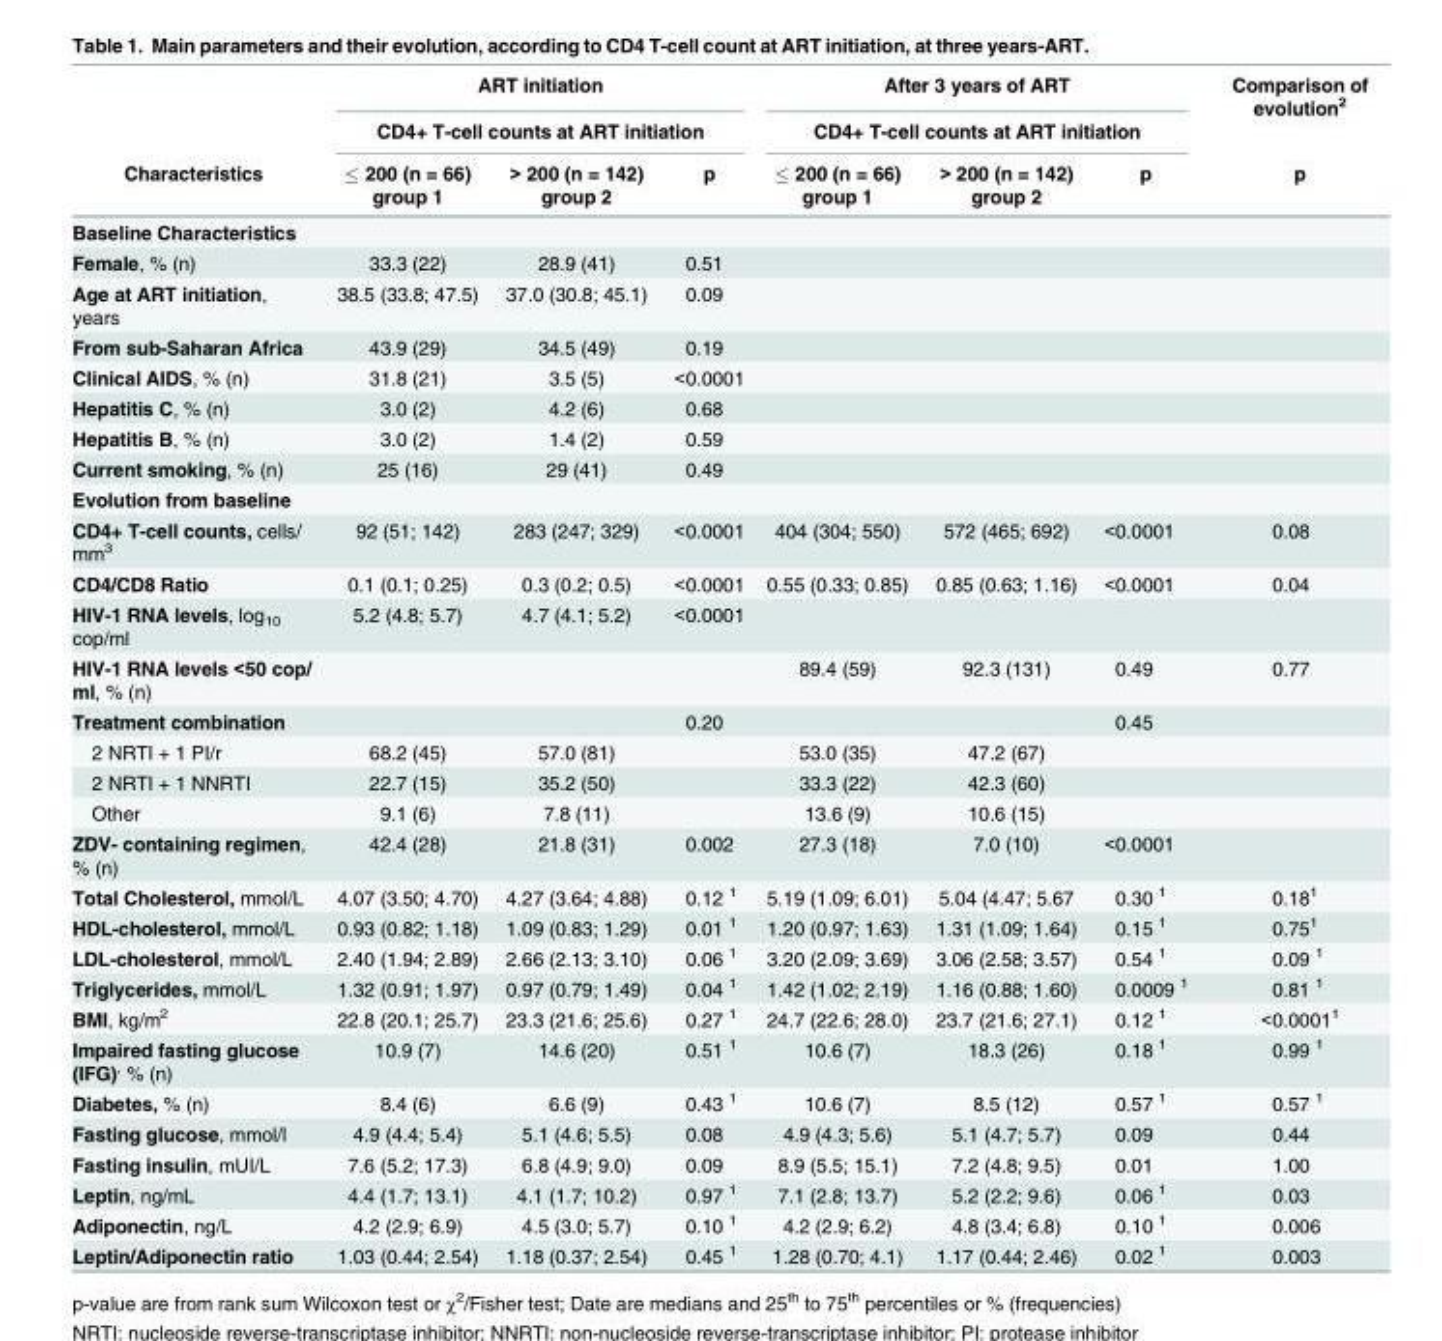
<table><thead><tr><td rowspan="3">Characteristics</td><td rowspan="2" colspan="3">ART initiation CD4+ T-cell counts at ART initiation</td><td rowspan="2" colspan="3">After 3 years of ART CD4+ T-cell counts at ART initiation</td><td rowspan="3">Comparison of evolution<sup>2</sup> p</td></tr><tr></tr><tr><td>≤ 200 (n = 66) group 1</td><td>&gt; 200 (n = 142) group 2</td><td>p</td><td>≤ 200 (n = 66) group 1</td><td>&gt; 200 (n = 142) group 2</td><td>p</td></tr></thead><tbody><tr><td colspan="8">Baseline Characteristics</td></tr><tr><td>Female, % (n)</td><td>33.3 (22)</td><td>28.9 (41)</td><td>0.51</td><td></td><td></td><td></td><td></td></tr><tr><td>Age at ART initiation, years</td><td>38.5 (33.8; 47.5)</td><td>37.0 (30.8; 45.1)</td><td>0.09</td><td></td><td></td><td></td><td></td></tr><tr><td>From sub-Saharan Africa</td><td>43.9 (29)</td><td>34.5 (49)</td><td>0.19</td><td></td><td></td><td></td><td></td></tr><tr><td>Clinical AIDS, % (n)</td><td>31.8 (21)</td><td>3.5 (5)</td><td>&lt;0.0001</td><td></td><td></td><td></td><td></td></tr><tr><td>Hepatitis C, % (n)</td><td>3.0 (2)</td><td>4.2 (6)</td><td>0.68</td><td></td><td></td><td></td><td></td></tr><tr><td>Hepatitis B, % (n)</td><td>3.0 (2)</td><td>1.4 (2)</td><td>0.59</td><td></td><td></td><td></td><td></td></tr><tr><td>Current smoking, % (n)</td><td>25 (16)</td><td>29 (41)</td><td>0.49</td><td></td><td></td><td></td><td></td></tr><tr><td colspan="8">Evolution from baseline</td></tr><tr><td>CD4+ T-cell counts, cells/ mm<sup>3</sup></td><td>92 (51; 142)</td><td>283 (247; 329)</td><td>&lt;0.0001</td><td>404 (304; 550)</td><td>572 (465; 692)</td><td>&lt;0.0001</td><td>0.08</td></tr><tr><td>CD4/CD8 Ratio</td><td>0.1 (0.1; 0.25)</td><td>0.3 (0.2; 0.5)</td><td>&lt;0.0001</td><td>0.55 (0.33; 0.85)</td><td>0.85 (0.63; 1.16)</td><td>&lt;0.0001</td><td>0.04</td></tr><tr><td>HIV-1 RNA levels, log<sub>10</sub> cop/ml</td><td>5.2 (4.8; 5.7)</td><td>4.7 (4.1; 5.2)</td><td>&lt;0.0001</td><td></td><td></td><td></td><td></td></tr><tr><td>HIV-1 RNA levels &lt;50 cop/ ml, % (n)</td><td></td><td></td><td></td><td>89.4 (59)</td><td>92.3 (131)</td><td>0.49</td><td>0.77</td></tr><tr><td>Treatment combination</td><td></td><td></td><td>0.20</td><td></td><td></td><td>0.45</td><td></td></tr><tr><td>2 NRTI + 1 PI/r</td><td>68.2 (45)</td><td>57.0 (81)</td><td></td><td>53.0 (35)</td><td>47.2 (67)</td><td></td><td></td></tr><tr><td>2 NRTI + 1 NNRTI</td><td>22.7 (15)</td><td>35.2 (50)</td><td></td><td>33.3 (22)</td><td>42.3 (60)</td><td></td><td></td></tr><tr><td>Other</td><td>9.1 (6)</td><td>7.8 (11)</td><td></td><td>13.6 (9)</td><td>10.6 (15)</td><td></td><td></td></tr><tr><td>ZDV- containing regimen, % (n)</td><td>42.4 (28)</td><td>21.8 (31)</td><td>0.002</td><td>27.3 (18)</td><td>7.0 (10)</td><td>&lt;0.0001</td><td></td></tr><tr><td>Total Cholesterol, mmol/L</td><td>4.07 (3.50; 4.70)</td><td>4.27 (3.64; 4.88)</td><td>0.12 <sup>1</sup></td><td>5.19 (1.09; 6.01)</td><td>5.04 (4.47; 5.67</td><td>0.30 <sup>1</sup></td><td>0.18<sup>1</sup></td></tr><tr><td>HDL-cholesterol, mmol/L</td><td>0.93 (0.82; 1.18)</td><td>1.09 (0.83; 1.29)</td><td>0.01 <sup>1</sup></td><td>1.20 (0.97; 1.63)</td><td>1.31 (1.09; 1.64)</td><td>0.15 <sup>1</sup></td><td>0.75<sup>1</sup></td></tr><tr><td>LDL-cholesterol, mmol/L</td><td>2.40 (1.94; 2.89)</td><td>2.66 (2.13; 3.10)</td><td>0.06 <sup>1</sup></td><td>3.20 (2.09; 3.69)</td><td>3.06 (2.58; 3.57)</td><td>0.54 <sup>1</sup></td><td>0.09 <sup>1</sup></td></tr><tr><td>Triglycerides, mmol/L</td><td>1.32 (0.91; 1.97)</td><td>0.97 (0.79; 1.49)</td><td>0.04 <sup>1</sup></td><td>1.42 (1.02; 2.19)</td><td>1.16 (0.88; 1.60)</td><td>0.0009 <sup>1</sup></td><td>0.81 <sup>1</sup></td></tr><tr><td>BMI, kg/m<sup>2</sup></td><td>22.8 (20.1; 25.7)</td><td>23.3 (21.6; 25.6)</td><td>0.27 <sup>1</sup></td><td>24.7 (22.6; 28.0)</td><td>23.7 (21.6; 27.1)</td><td>0.12 <sup>1</sup></td><td>&lt;0.0001<sup>1</sup></td></tr><tr><td>Impaired fasting glucose (IFG)<sup>,</sup> % (n)</td><td>10.9 (7)</td><td>14.6 (20)</td><td>0.51 <sup>1</sup></td><td>10.6 (7)</td><td>18.3 (26)</td><td>0.18 <sup>1</sup></td><td>0.99 <sup>1</sup></td></tr><tr><td>Diabetes, % (n)</td><td>8.4 (6)</td><td>6.6 (9)</td><td>0.43 <sup>1</sup></td><td>10.6 (7)</td><td>8.5 (12)</td><td>0.57 <sup>1</sup></td><td>0.57 <sup>1</sup></td></tr><tr><td>Fasting glucose, mmol/l</td><td>4.9 (4.4; 5.4)</td><td>5.1 (4.6; 5.5)</td><td>0.08</td><td>4.9 (4.3; 5.6)</td><td>5.1 (4.7; 5.7)</td><td>0.09</td><td>0.44</td></tr><tr><td>Fasting insulin, mUI/L</td><td>7.6 (5.2; 17.3)</td><td>6.8 (4.9; 9.0)</td><td>0.09</td><td>8.9 (5.5; 15.1)</td><td>7.2 (4.8; 9.5)</td><td>0.01</td><td>1.00</td></tr><tr><td>Leptin, ng/mL</td><td>4.4 (1.7; 13.1)</td><td>4.1 (1.7; 10.2)</td><td>0.97 <sup>1</sup></td><td>7.1 (2.8; 13.7)</td><td>5.2 (2.2; 9.6)</td><td>0.06 <sup>1</sup></td><td>0.03</td></tr><tr><td>Adiponectin, ng/L</td><td>4.2 (2.9; 6.9)</td><td>4.5 (3.0; 5.7)</td><td>0.10 <sup>1</sup></td><td>4.2 (2.9; 6.2)</td><td>4.8 (3.4; 6.8)</td><td>0.10 <sup>1</sup></td><td>0.006</td></tr><tr><td>Leptin/Adiponectin ratio</td><td>1.03 (0.44; 2.54)</td><td>1.18 (0.37; 2.54)</td><td>0.45 <sup>1</sup></td><td>1.28 (0.70; 4.1)</td><td>1.17 (0.44; 2.46)</td><td>0.02 <sup>1</sup></td><td>0.003</td></tr></tbody></table>